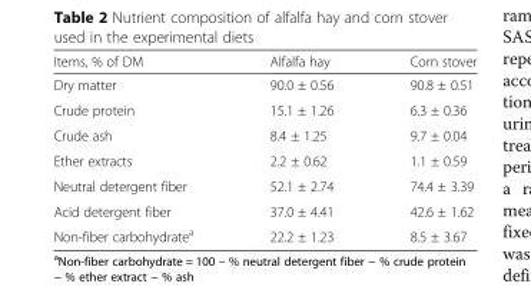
<table><thead><tr><td>Items, % of DM</td><td>Alfalfa hay</td><td>Corn stover</td></tr></thead><tbody><tr><td>Dry matter</td><td>90.0 ± 0.56</td><td>90.8 ± 0.51</td></tr><tr><td>Crude protein</td><td>15.1 ± 1.26</td><td>6.3 ± 0.36</td></tr><tr><td>Crude ash</td><td>8.4 ± 1.25</td><td>9.7 ± 0.04</td></tr><tr><td>Ether extracts</td><td>2.2 ± 0.62</td><td>1.1 ± 0.59</td></tr><tr><td>Neutral detergent fiber</td><td>52.1 ± 2.74</td><td>74.4 ± 3.39</td></tr><tr><td>Acid detergent fiber</td><td>37.0 ± 4.41</td><td>42.6 ± 1.62</td></tr><tr><td>Non-fiber carbohydrate<sup>a</sup></td><td>22.2 ± 1.23</td><td>8.5 ± 3.67</td></tr></tbody></table>